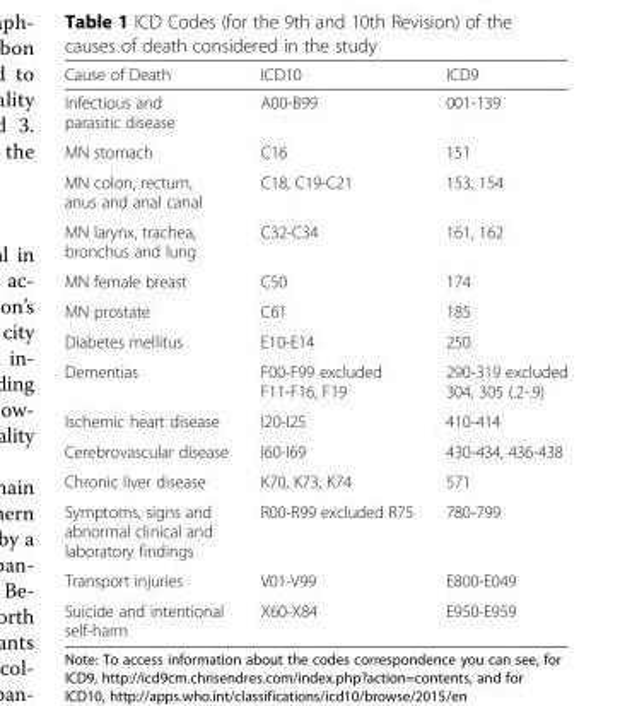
<table><thead><tr><td>Cause of Death</td><td>ICD10</td><td>ICD9</td></tr></thead><tbody><tr><td>Infectious and parasitic disease</td><td>A00-B99</td><td>001-139</td></tr><tr><td>MN stomach</td><td>C16</td><td>151</td></tr><tr><td>MN colon, rectum, anus and anal canal</td><td>C18, C19-C21</td><td>153, 154</td></tr><tr><td>MN larynx, trachea, bronchus and lung</td><td>C32-C34</td><td>161, 162</td></tr><tr><td>MN female breast</td><td>C50</td><td>174</td></tr><tr><td>MN prostate</td><td>C61</td><td>185</td></tr><tr><td>Diabetes mellitus</td><td>E10-E14</td><td>250</td></tr><tr><td>Dementias</td><td>F00-F99 excluded F11-F16, F19</td><td>290-319 excluded 304, 305 (.2-.9)</td></tr><tr><td>Ischemic heart disease</td><td>I20-I25</td><td>410-414</td></tr><tr><td>Cerebrovascular disease</td><td>I60-I69</td><td>430-434, 436-438</td></tr><tr><td>Chronic liver disease</td><td>K70, K73, K74</td><td>571</td></tr><tr><td>Symptoms, signs and abnormal clinical and laboratory findings</td><td>R00-R99 excluded R75</td><td>780-799</td></tr><tr><td>Transport injuries</td><td>V01-V99</td><td>E800-E049</td></tr><tr><td>Suicide and intentional self-harm</td><td>X60-X84</td><td>E950-E959</td></tr></tbody></table>